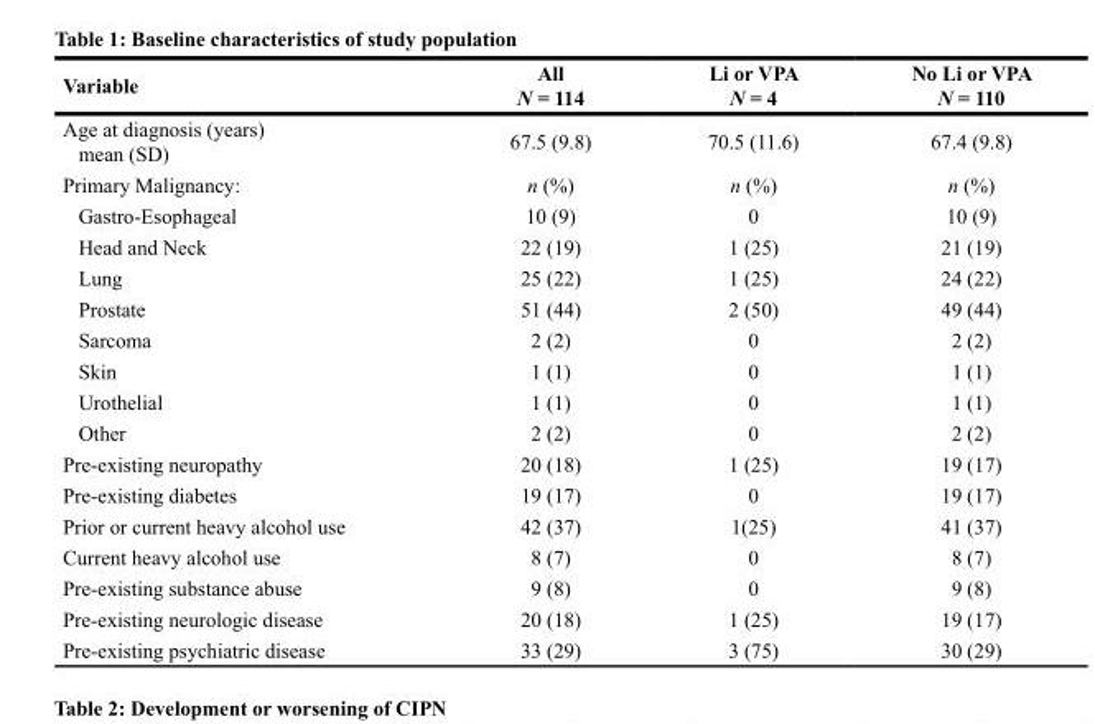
<table><thead><tr><td>Variable</td><td>All N = 114</td><td>Li or VPA N = 4</td><td>No Li or VPA N = 110</td></tr></thead><tbody><tr><td>Age at diagnosis (years) mean (SD)</td><td>67.5 (9.8)</td><td>70.5 (11.6)</td><td>67.4 (9.8)</td></tr><tr><td>Primary Malignancy:</td><td>n (%)</td><td>n (%)</td><td>n (%)</td></tr><tr><td>Gastro-Esophageal</td><td>10 (9)</td><td>0</td><td>10 (9)</td></tr><tr><td>Head and Neck</td><td>22 (19)</td><td>1 (25)</td><td>21 (19)</td></tr><tr><td>Lung</td><td>25 (22)</td><td>1 (25)</td><td>24 (22)</td></tr><tr><td>Prostate</td><td>51 (44)</td><td>2 (50)</td><td>49 (44)</td></tr><tr><td>Sarcoma</td><td>2 (2)</td><td>0</td><td>2 (2)</td></tr><tr><td>Skin</td><td>1 (1)</td><td>0</td><td>1 (1)</td></tr><tr><td>Urothelial</td><td>1 (1)</td><td>0</td><td>1 (1)</td></tr><tr><td>Other</td><td>2 (2)</td><td>0</td><td>2 (2)</td></tr><tr><td>Pre-existing neuropathy</td><td>20 (18)</td><td>1 (25)</td><td>19 (17)</td></tr><tr><td>Pre-existing diabetes</td><td>19 (17)</td><td>0</td><td>19 (17)</td></tr><tr><td>Prior or current heavy alcohol use</td><td>42 (37)</td><td>1(25)</td><td>41 (37)</td></tr><tr><td>Current heavy alcohol use</td><td>8 (7)</td><td>0</td><td>8 (7)</td></tr><tr><td>Pre-existing substance abuse</td><td>9 (8)</td><td>0</td><td>9 (8)</td></tr><tr><td>Pre-existing neurologic disease</td><td>20 (18)</td><td>1 (25)</td><td>19 (17)</td></tr><tr><td>Pre-existing psychiatric disease</td><td>33 (29)</td><td>3 (75)</td><td>30 (29)</td></tr></tbody></table>